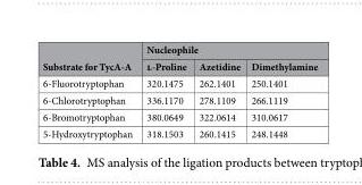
<table><thead><tr><td rowspan="2">Substrate for TycA-A</td><td colspan="3">Nucleophile</td></tr><tr><td>l-Proline</td><td>Azetidine</td><td>Dimethylamine</td></tr></thead><tbody><tr><td>6-Fluorotryptophan</td><td>320.1475</td><td>262.1401</td><td>250.1401</td></tr><tr><td>6-Chlorotryptophan</td><td>336.1170</td><td>278.1109</td><td>266.1119</td></tr><tr><td>6-Bromotryptophan</td><td>380.0649</td><td>322.0614</td><td>310.0617</td></tr><tr><td>5-Hydroxytryptophan</td><td>318.1503</td><td>260.1415</td><td>248.1448</td></tr></tbody></table>